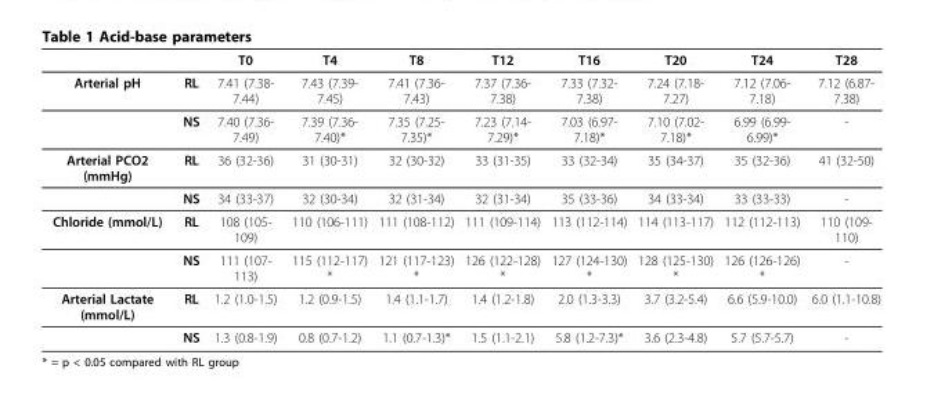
<table><thead><tr><td></td><td></td><td>T0</td><td>T4</td><td>T8</td><td>T12</td><td>T16</td><td>T20</td><td>T24</td><td>T28</td></tr></thead><tbody><tr><td rowspan="2">Arterial pH</td><td>RL</td><td>7.41 (7.38- 7.44)</td><td>7.43 (7.39- 7.45)</td><td>7.41 (7.36- 7.43)</td><td>7.37 (7.36- 7.38)</td><td>7.33 (7.32- 7.38)</td><td>7.24 (7.18- 7.27)</td><td>7.12 (7.06- 7.18)</td><td>7.12 (6.87- 7.38)</td></tr><tr><td>NS</td><td>7.40 (7.36- 7.49)</td><td>7.39 (7.36- 7.40)*</td><td>7.35 (7.25- 7.35)*</td><td>7.23 (7.14- 7.29)*</td><td>7.03 (6.97- 7.18)*</td><td>7.10 (7.02- 7.18)*</td><td>6.99 (6.99- 6.99)*</td><td>-</td></tr><tr><td rowspan="2">Arterial PCO2 (mmHg)</td><td>RL</td><td>36 (32-36)</td><td>31 (30-31)</td><td>32 (30-32)</td><td>33 (31-35)</td><td>33 (32-34)</td><td>35 (34-37)</td><td>35 (32-36)</td><td>41 (32-50)</td></tr><tr><td>NS</td><td>34 (33-37)</td><td>32 (30-34)</td><td>32 (31-34)</td><td>32 (31-34)</td><td>35 (33-36)</td><td>34 (33-34)</td><td>33 (33-33)</td><td>-</td></tr><tr><td rowspan="2">Chloride (mmol/L)</td><td>RL</td><td>108 (105- 109)</td><td>110 (106-111)</td><td>111 (108-112)</td><td>111 (109-114)</td><td>113 (112-114)</td><td>114 (113-117)</td><td>112 (112-113)</td><td>110 (109- 110)</td></tr><tr><td>NS</td><td>111 (107- 113)</td><td>115 (112-117) *</td><td>121 (117-123) *</td><td>126 (122-128) *</td><td>127 (124-130) *</td><td>128 (125-130) *</td><td>126 (126-126) *</td><td>-</td></tr><tr><td rowspan="2">Arterial Lactate (mmol/L)</td><td>RL</td><td>1.2 (1.0-1.5)</td><td>1.2 (0.9-1.5)</td><td>1.4 (1.1-1.7)</td><td>1.4 (1.2-1.8)</td><td>2.0 (1.3-3.3)</td><td>3.7 (3.2-5.4)</td><td>6.6 (5.9-10.0)</td><td>6.0 (1.1-10.8)</td></tr><tr><td>NS</td><td>1.3 (0.8-1.9)</td><td>0.8 (0.7-1.2)</td><td>1.1 (0.7-1.3)*</td><td>1.5 (1.1-2.1)</td><td>5.8 (1.2-7.3)*</td><td>3.6 (2.3-4.8)</td><td>5.7 (5.7-5.7)</td><td>-</td></tr></tbody></table>